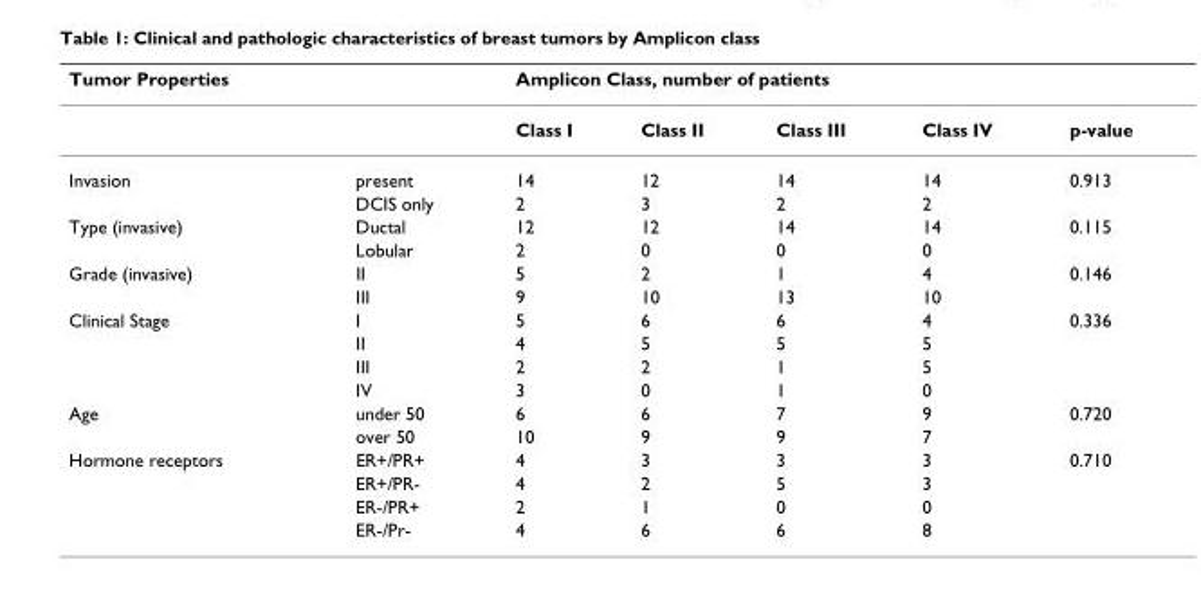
<table><thead><tr><td colspan="2">Tumor Properties</td><td colspan="4">Amplicon Class, number of patients</td><td rowspan="2">p-value</td></tr><tr><td></td><td></td><td>Class I</td><td>Class II</td><td>Class III</td><td>Class IV</td></tr></thead><tbody><tr><td rowspan="2">Invasion</td><td>present</td><td>14</td><td>12</td><td>14</td><td>14</td><td>0.913</td></tr><tr><td>DCIS only</td><td>2</td><td>3</td><td>2</td><td>2</td><td></td></tr><tr><td rowspan="2">Type (invasive)</td><td>Ductal</td><td>12</td><td>12</td><td>14</td><td>14</td><td>0.115</td></tr><tr><td>Lobular</td><td>2</td><td>0</td><td>0</td><td>0</td><td></td></tr><tr><td rowspan="2">Grade (invasive)</td><td>II</td><td>5</td><td>2</td><td>1</td><td>4</td><td>0.146</td></tr><tr><td>III</td><td>9</td><td>10</td><td>13</td><td>10</td><td></td></tr><tr><td rowspan="4">Clinical Stage</td><td>I</td><td>5</td><td>6</td><td>6</td><td>4</td><td>0.336</td></tr><tr><td>II</td><td>4</td><td>5</td><td>5</td><td>5</td><td></td></tr><tr><td>III</td><td>2</td><td>2</td><td>1</td><td>5</td><td></td></tr><tr><td>IV</td><td>3</td><td>0</td><td>1</td><td>0</td><td></td></tr><tr><td rowspan="2">Age</td><td>under 50</td><td>6</td><td>6</td><td>7</td><td>9</td><td>0.720</td></tr><tr><td>over 50</td><td>10</td><td>9</td><td>9</td><td>7</td><td></td></tr><tr><td rowspan="4">Hormone receptors</td><td>ER+/PR+</td><td>4</td><td>3</td><td>3</td><td>3</td><td>0.710</td></tr><tr><td>ER+/PR-</td><td>4</td><td>2</td><td>5</td><td>3</td><td></td></tr><tr><td>ER-/PR+</td><td>2</td><td>1</td><td>0</td><td>0</td><td></td></tr><tr><td>ER-/Pr-</td><td>4</td><td>6</td><td>6</td><td>8</td><td></td></tr></tbody></table>